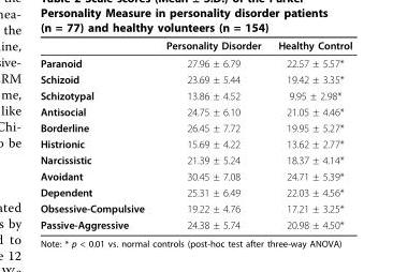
<table><thead><tr><td></td><td>Personality Disorder</td><td>Healthy Control</td></tr></thead><tbody><tr><td>Paranoid</td><td>27.96 ± 6.79</td><td>22.57 ± 5.57*</td></tr><tr><td>Schizoid</td><td>23.69 ± 5.44</td><td>19.42 ± 3.35*</td></tr><tr><td>Schizotypal</td><td>13.86 ± 4.52</td><td>9.95 ± 2.98*</td></tr><tr><td>Antisocial</td><td>24.75 ± 6.10</td><td>21.05 ± 4.46*</td></tr><tr><td>Borderline</td><td>26.45 ± 7.72</td><td>19.95 ± 5.27*</td></tr><tr><td>Histrionic</td><td>15.69 ± 4.22</td><td>13.62 ± 2.77*</td></tr><tr><td>Narcissistic</td><td>21.39 ± 5.24</td><td>18.37 ± 4.14*</td></tr><tr><td>Avoidant</td><td>30.45 ± 7.08</td><td>24.71 ± 5.39*</td></tr><tr><td>Dependent</td><td>25.31 ± 6.49</td><td>22.03 ± 4.56*</td></tr><tr><td>Obsessive-Compulsive</td><td>19.22 ± 4.76</td><td>17.21 ± 3.25*</td></tr><tr><td>Passive-Aggressive</td><td>24.38 ± 5.74</td><td>20.98 ± 4.50*</td></tr></tbody></table>